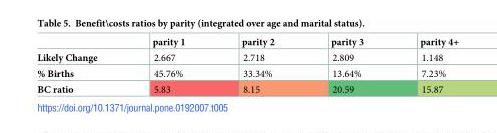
<table><thead><tr><td></td><td>parity 1</td><td>parity 2</td><td>parity 3</td><td>parity 4+</td></tr></thead><tbody><tr><td>Likely Change</td><td>2.667</td><td>2.718</td><td>2.809</td><td>1.148</td></tr><tr><td>% Births</td><td>45.76%</td><td>33.34%</td><td>13.64%</td><td>7.23%</td></tr><tr><td>BC ratio</td><td>5.83</td><td>8.15</td><td>20.59</td><td>15.87</td></tr></tbody></table>